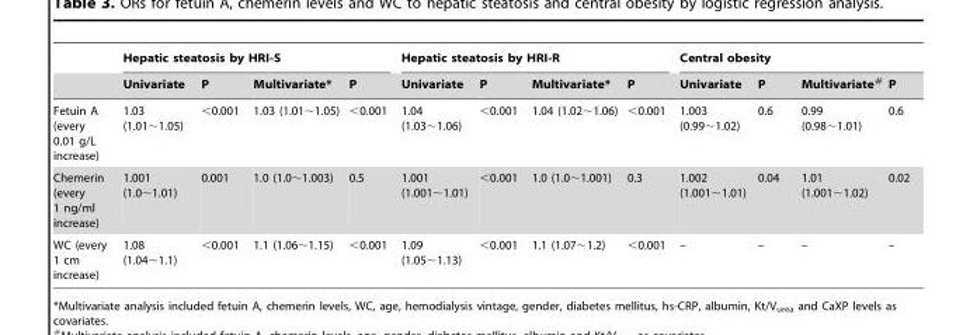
<table><thead><tr><td rowspan="2"></td><td colspan="4">Hepatic steatosis by HRI-S</td><td colspan="4">Hepatic steatosis by HRI-R</td><td colspan="4">Central obesity</td></tr><tr><td>Univariate</td><td>P</td><td>Multivariate*</td><td>P</td><td>Univariate</td><td>P</td><td>Multivariate*</td><td>P</td><td>Univariate</td><td>P</td><td>Multivariate#</td><td>P</td></tr></thead><tbody><tr><td>Fetuin A (every 0.01 g/L increase)</td><td>1.03 (1.01∼1.05)</td><td>&lt;0.001</td><td>1.03 (1.01∼1.05)</td><td>&lt;0.001</td><td>1.04 (1.03∼1.06)</td><td>&lt;0.001</td><td>1.04 (1.02∼1.06)</td><td>&lt;0.001</td><td>1.003 (0.99∼1.02)</td><td>0.6</td><td>0.99 (0.98∼1.01)</td><td>0.6</td></tr><tr><td>Chemerin (every 1 ng/ml increase)</td><td>1.001 (1.0∼1.01)</td><td>0.001</td><td>1.0 (1.0∼1.003)</td><td>0.5</td><td>1.001 (1.001∼1.01)</td><td>&lt;0.001</td><td>1.0 (1.0∼1.001)</td><td>0.3</td><td>1.002 (1.001∼1.01)</td><td>0.04</td><td>1.01 (1.001∼1.02)</td><td>0.02</td></tr><tr><td>WC (every 1 cm increase)</td><td>1.08 (1.04∼1.1)</td><td>&lt;0.001</td><td>1.1 (1.06∼1.15)</td><td>&lt;0.001</td><td>1.09 (1.05∼1.13)</td><td>&lt;0.001</td><td>1.1 (1.07∼1.2)</td><td>&lt;0.001</td><td>–</td><td>–</td><td>–</td><td>–</td></tr></tbody></table>